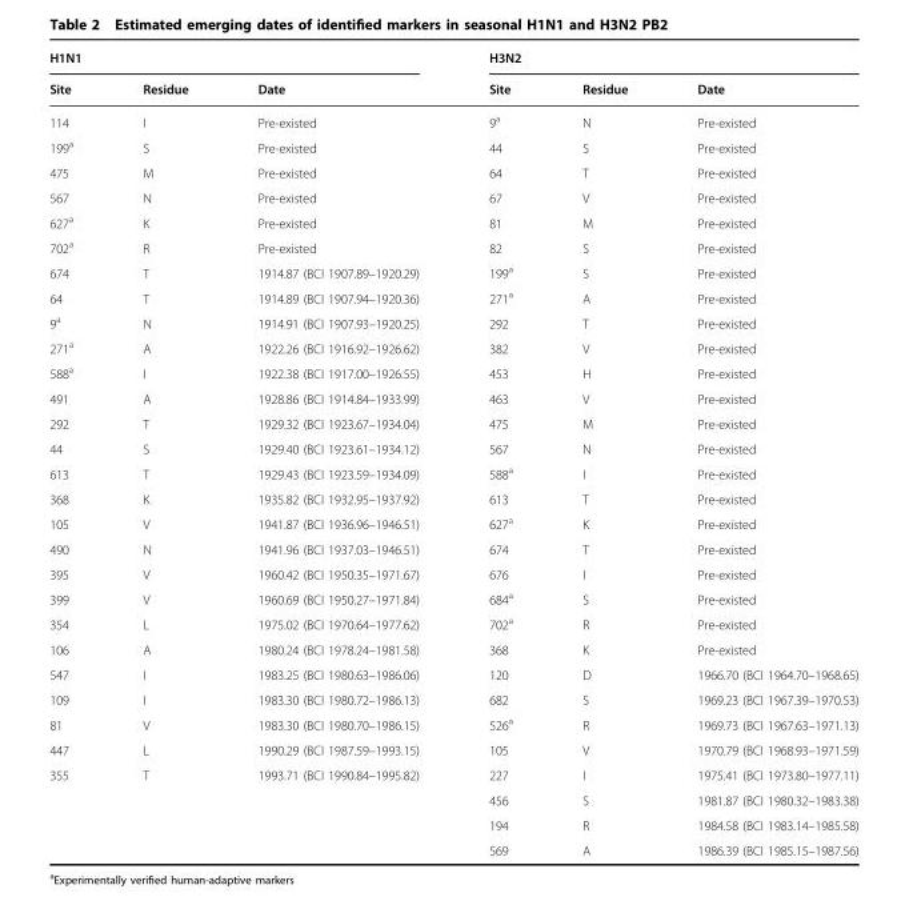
<table><thead><tr><td colspan="3">H1N1</td><td colspan="3">H3N2</td></tr><tr><td>Site</td><td>Residue</td><td>Date</td><td>Site</td><td>Residue</td><td>Date</td></tr></thead><tbody><tr><td>114</td><td>I</td><td>Pre-existed</td><td>9<sup>a</sup></td><td>N</td><td>Pre-existed</td></tr><tr><td>199<sup>a</sup></td><td>S</td><td>Pre-existed</td><td>44</td><td>S</td><td>Pre-existed</td></tr><tr><td>475</td><td>M</td><td>Pre-existed</td><td>64</td><td>T</td><td>Pre-existed</td></tr><tr><td>567</td><td>N</td><td>Pre-existed</td><td>67</td><td>V</td><td>Pre-existed</td></tr><tr><td>627<sup>a</sup></td><td>K</td><td>Pre-existed</td><td>81</td><td>M</td><td>Pre-existed</td></tr><tr><td>702<sup>a</sup></td><td>R</td><td>Pre-existed</td><td>82</td><td>S</td><td>Pre-existed</td></tr><tr><td>674</td><td>T</td><td>1914.87 (BCI 1907.89–1920.29)</td><td>199<sup>a</sup></td><td>S</td><td>Pre-existed</td></tr><tr><td>64</td><td>T</td><td>1914.89 (BCI 1907.94–1920.36)</td><td>271<sup>a</sup></td><td>A</td><td>Pre-existed</td></tr><tr><td>9<sup>a</sup></td><td>N</td><td>1914.91 (BCI 1907.93–1920.25)</td><td>292</td><td>T</td><td>Pre-existed</td></tr><tr><td>271<sup>a</sup></td><td>A</td><td>1922.26 (BCI 1916.92–1926.62)</td><td>382</td><td>V</td><td>Pre-existed</td></tr><tr><td>588<sup>a</sup></td><td>I</td><td>1922.38 (BCI 1917.00–1926.55)</td><td>453</td><td>H</td><td>Pre-existed</td></tr><tr><td>491</td><td>A</td><td>1928.86 (BCI 1914.84–1933.99)</td><td>463</td><td>V</td><td>Pre-existed</td></tr><tr><td>292</td><td>T</td><td>1929.32 (BCI 1923.67–1934.04)</td><td>475</td><td>M</td><td>Pre-existed</td></tr><tr><td>44</td><td>S</td><td>1929.40 (BCI 1923.61–1934.12)</td><td>567</td><td>N</td><td>Pre-existed</td></tr><tr><td>613</td><td>T</td><td>1929.43 (BCI 1923.59–1934.09)</td><td>588<sup>a</sup></td><td>I</td><td>Pre-existed</td></tr><tr><td>368</td><td>K</td><td>1935.82 (BCI 1932.95–1937.92)</td><td>613</td><td>T</td><td>Pre-existed</td></tr><tr><td>105</td><td>V</td><td>1941.87 (BCI 1936.96–1946.51)</td><td>627<sup>a</sup></td><td>K</td><td>Pre-existed</td></tr><tr><td>490</td><td>N</td><td>1941.96 (BCI 1937.03–1946.51)</td><td>674</td><td>T</td><td>Pre-existed</td></tr><tr><td>395</td><td>V</td><td>1960.42 (BCI 1950.35–1971.67)</td><td>676</td><td>I</td><td>Pre-existed</td></tr><tr><td>399</td><td>V</td><td>1960.69 (BCI 1950.27–1971.84)</td><td>684<sup>a</sup></td><td>S</td><td>Pre-existed</td></tr><tr><td>354</td><td>L</td><td>1975.02 (BCI 1970.64–1977.62)</td><td>702<sup>a</sup></td><td>R</td><td>Pre-existed</td></tr><tr><td>106</td><td>A</td><td>1980.24 (BCI 1978.24–1981.58)</td><td>368</td><td>K</td><td>Pre-existed</td></tr><tr><td>547</td><td>I</td><td>1983.25 (BCI 1980.63–1986.06)</td><td>120</td><td>D</td><td>1966.70 (BCI 1964.70–1968.65)</td></tr><tr><td>109</td><td>I</td><td>1983.30 (BCI 1980.72–1986.13)</td><td>682</td><td>S</td><td>1969.23 (BCI 1967.39–1970.53)</td></tr><tr><td>81</td><td>V</td><td>1983.30 (BCI 1980.70–1986.15)</td><td>526<sup>a</sup></td><td>R</td><td>1969.73 (BCI 1967.63–1971.13)</td></tr><tr><td>447</td><td>L</td><td>1990.29 (BCI 1987.59–1993.15)</td><td>105</td><td>V</td><td>1970.79 (BCI 1968.93–1971.59)</td></tr><tr><td rowspan="4">355</td><td>T</td><td>1993.71 (BCI 1990.84–1995.82)</td><td>227</td><td>I</td><td>1975.41 (BCI 1973.80–1977.11)</td></tr><tr><td></td><td></td><td>456</td><td>S</td><td>1981.87 (BCI 1980.32–1983.38)</td></tr><tr><td></td><td></td><td>194</td><td>R</td><td>1984.58 (BCI 1983.14–1985.58)</td></tr><tr><td></td><td></td><td>569</td><td>A</td><td>1986.39 (BCI 1985.15–1987.56)</td></tr></tbody></table>